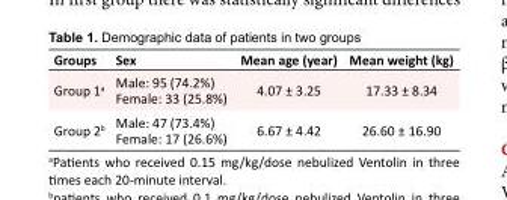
<table><tbody><tr><td>Groups</td><td>Sex</td><td>Mean age (year)</td><td>Mean weight (kg)</td></tr><tr><td>Group 1<sup>a</sup></td><td>Male: 95 (74.2%) Female: 33 (25.8%)</td><td>4.07 ± 3.25</td><td>17.33 ± 8.34</td></tr><tr><td>Group 2<sup>b</sup></td><td>Male: 47 (73.4%) Female: 17 (26.6%)</td><td>6.67 ± 4.42</td><td>26.60 ± 16.90</td></tr></tbody></table>